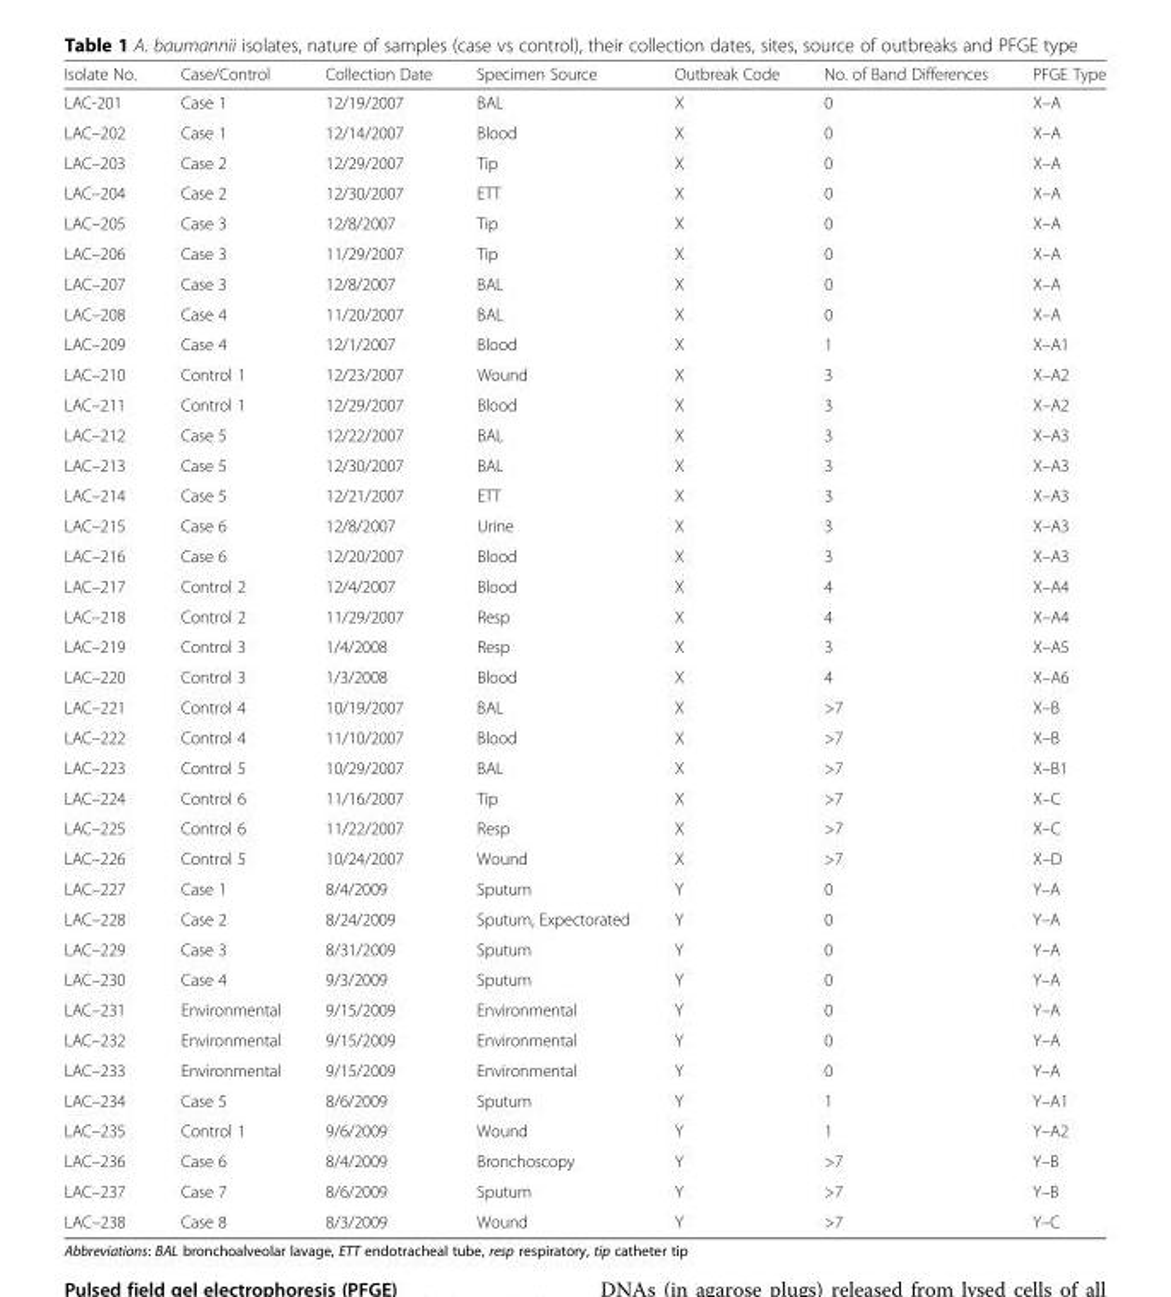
<table><thead><tr><td>Isolate No.</td><td>Case/Control</td><td>Collection Date</td><td>Specimen Source</td><td>Outbreak Code</td><td>No. of Band Differences</td><td>PFGE Type</td></tr></thead><tbody><tr><td>LAC-201</td><td>Case 1</td><td>12/19/2007</td><td>BAL</td><td>X</td><td>0</td><td>X–A</td></tr><tr><td>LAC–202</td><td>Case 1</td><td>12/14/2007</td><td>Blood</td><td>X</td><td>0</td><td>X–A</td></tr><tr><td>LAC–203</td><td>Case 2</td><td>12/29/2007</td><td>Tip</td><td>X</td><td>0</td><td>X–A</td></tr><tr><td>LAC–204</td><td>Case 2</td><td>12/30/2007</td><td>ETT</td><td>X</td><td>0</td><td>X–A</td></tr><tr><td>LAC–205</td><td>Case 3</td><td>12/8/2007</td><td>Tip</td><td>X</td><td>0</td><td>X–A</td></tr><tr><td>LAC–206</td><td>Case 3</td><td>11/29/2007</td><td>Tip</td><td>X</td><td>0</td><td>X–A</td></tr><tr><td>LAC–207</td><td>Case 3</td><td>12/8/2007</td><td>BAL</td><td>X</td><td>0</td><td>X–A</td></tr><tr><td>LAC–208</td><td>Case 4</td><td>11/20/2007</td><td>BAL</td><td>X</td><td>0</td><td>X–A</td></tr><tr><td>LAC–209</td><td>Case 4</td><td>12/1/2007</td><td>Blood</td><td>X</td><td>1</td><td>X–A1</td></tr><tr><td>LAC–210</td><td>Control 1</td><td>12/23/2007</td><td>Wound</td><td>X</td><td>3</td><td>X–A2</td></tr><tr><td>LAC–211</td><td>Control 1</td><td>12/29/2007</td><td>Blood</td><td>X</td><td>3</td><td>X–A2</td></tr><tr><td>LAC–212</td><td>Case 5</td><td>12/22/2007</td><td>BAL</td><td>X</td><td>3</td><td>X–A3</td></tr><tr><td>LAC–213</td><td>Case 5</td><td>12/30/2007</td><td>BAL</td><td>X</td><td>3</td><td>X–A3</td></tr><tr><td>LAC–214</td><td>Case 5</td><td>12/21/2007</td><td>ETT</td><td>X</td><td>3</td><td>X–A3</td></tr><tr><td>LAC–215</td><td>Case 6</td><td>12/8/2007</td><td>Urine</td><td>X</td><td>3</td><td>X–A3</td></tr><tr><td>LAC–216</td><td>Case 6</td><td>12/20/2007</td><td>Blood</td><td>X</td><td>3</td><td>X–A3</td></tr><tr><td>LAC–217</td><td>Control 2</td><td>12/4/2007</td><td>Blood</td><td>X</td><td>4</td><td>X–A4</td></tr><tr><td>LAC–218</td><td>Control 2</td><td>11/29/2007</td><td>Resp</td><td>X</td><td>4</td><td>X–A4</td></tr><tr><td>LAC–219</td><td>Control 3</td><td>1/4/2008</td><td>Resp</td><td>X</td><td>3</td><td>X–A5</td></tr><tr><td>LAC–220</td><td>Control 3</td><td>1/3/2008</td><td>Blood</td><td>X</td><td>4</td><td>X–A6</td></tr><tr><td>LAC–221</td><td>Control 4</td><td>10/19/2007</td><td>BAL</td><td>X</td><td>&gt;7</td><td>X–B</td></tr><tr><td>LAC–222</td><td>Control 4</td><td>11/10/2007</td><td>Blood</td><td>X</td><td>&gt;7</td><td>X–B</td></tr><tr><td>LAC–223</td><td>Control 5</td><td>10/29/2007</td><td>BAL</td><td>X</td><td>&gt;7</td><td>X–B1</td></tr><tr><td>LAC–224</td><td>Control 6</td><td>11/16/2007</td><td>Tip</td><td>X</td><td>&gt;7</td><td>X–C</td></tr><tr><td>LAC–225</td><td>Control 6</td><td>11/22/2007</td><td>Resp</td><td>X</td><td>&gt;7</td><td>X–C</td></tr><tr><td>LAC–226</td><td>Control 5</td><td>10/24/2007</td><td>Wound</td><td>X</td><td>&gt;7</td><td>X–D</td></tr><tr><td>LAC–227</td><td>Case 1</td><td>8/4/2009</td><td>Sputum</td><td>Y</td><td>0</td><td>Y–A</td></tr><tr><td>LAC–228</td><td>Case 2</td><td>8/24/2009</td><td>Sputum, Expectorated</td><td>Y</td><td>0</td><td>Y–A</td></tr><tr><td>LAC–229</td><td>Case 3</td><td>8/31/2009</td><td>Sputum</td><td>Y</td><td>0</td><td>Y–A</td></tr><tr><td>LAC–230</td><td>Case 4</td><td>9/3/2009</td><td>Sputum</td><td>Y</td><td>0</td><td>Y–A</td></tr><tr><td>LAC–231</td><td>Environmental</td><td>9/15/2009</td><td>Environmental</td><td>Y</td><td>0</td><td>Y–A</td></tr><tr><td>LAC–232</td><td>Environmental</td><td>9/15/2009</td><td>Environmental</td><td>Y</td><td>0</td><td>Y–A</td></tr><tr><td>LAC–233</td><td>Environmental</td><td>9/15/2009</td><td>Environmental</td><td>Y</td><td>0</td><td>Y–A</td></tr><tr><td>LAC–234</td><td>Case 5</td><td>8/6/2009</td><td>Sputum</td><td>Y</td><td>1</td><td>Y–A1</td></tr><tr><td>LAC–235</td><td>Control 1</td><td>9/6/2009</td><td>Wound</td><td>Y</td><td>1</td><td>Y–A2</td></tr><tr><td>LAC–236</td><td>Case 6</td><td>8/4/2009</td><td>Bronchoscopy</td><td>Y</td><td>&gt;7</td><td>Y–B</td></tr><tr><td>LAC–237</td><td>Case 7</td><td>8/6/2009</td><td>Sputum</td><td>Y</td><td>&gt;7</td><td>Y–B</td></tr><tr><td>LAC–238</td><td>Case 8</td><td>8/3/2009</td><td>Wound</td><td>Y</td><td>&gt;7</td><td>Y–C</td></tr></tbody></table>